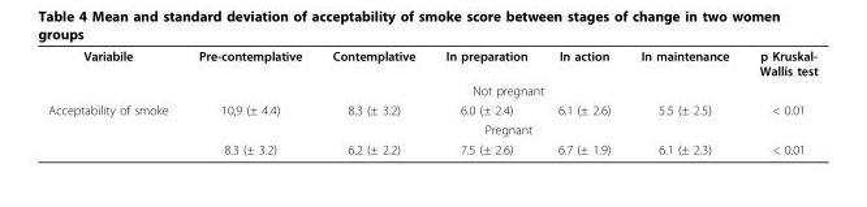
<table><tbody><tr><td rowspan="2">Variabile</td><td>Pre-contemplative</td><td>Contemplative</td><td>In preparation</td><td>In action</td><td>In maintenance</td><td>p Kruskal- Wallis test</td></tr><tr><td colspan="6">Not pregnant</td></tr><tr><td rowspan="3">Acceptability of smoke</td><td>10,9 (± 4.4)</td><td>8.3 (± 3.2)</td><td>6.0 (± 2.4)</td><td>6.1 (± 2.6)</td><td>5.5 (± 2.5)</td><td>&lt; 0.01</td></tr><tr><td colspan="6">Pregnant</td></tr><tr><td>8.3 (± 3.2)</td><td>6.2 (± 2.2)</td><td>7.5 (± 2.6)</td><td>6.7 (± 1.9)</td><td>6.1 (± 2.3)</td><td>&lt; 0.01</td></tr></tbody></table>